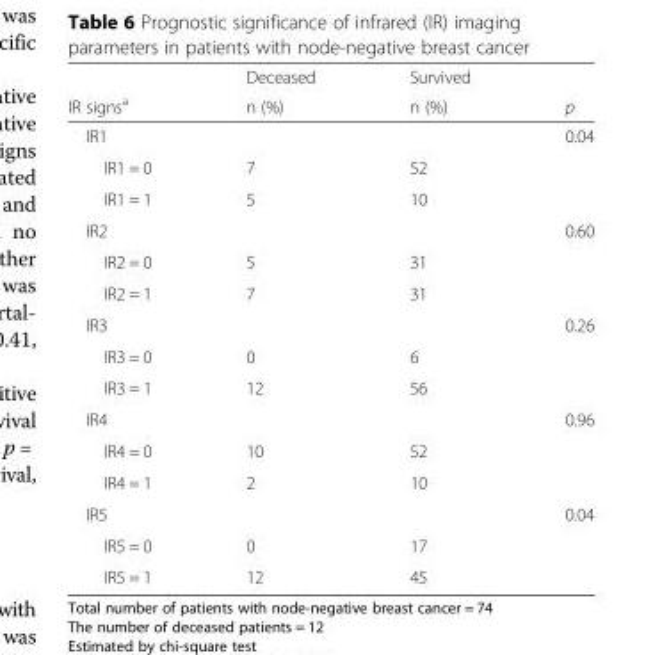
<table><thead><tr><td rowspan="2">IR signs<sup>a</sup></td><td rowspan="2">Deceased n (%)</td><td rowspan="2">Survived n (%)</td><td rowspan="2">p</td></tr><tr></tr></thead><tbody><tr><td colspan="3">IR1</td><td rowspan="3">0.04</td></tr><tr><td>IR1 = 0</td><td>7</td><td>52</td></tr><tr><td>IR1 = 1</td><td>5</td><td>10</td></tr><tr><td colspan="3">IR2</td><td rowspan="3">0.60</td></tr><tr><td>IR2 = 0</td><td>5</td><td>31</td></tr><tr><td>IR2 = 1</td><td>7</td><td>31</td></tr><tr><td colspan="3">IR3</td><td rowspan="3">0.26</td></tr><tr><td>IR3 = 0</td><td>0</td><td>6</td></tr><tr><td>IR3 = 1</td><td>12</td><td>56</td></tr><tr><td colspan="3">IR4</td><td rowspan="3">0.96</td></tr><tr><td>IR4 = 0</td><td>10</td><td>52</td></tr><tr><td>IR4 = 1</td><td>2</td><td>10</td></tr><tr><td colspan="3">IR5</td><td rowspan="3">0.04</td></tr><tr><td>IR5 = 0</td><td>0</td><td>17</td></tr><tr><td>IR5 = 1</td><td>12</td><td>45</td></tr></tbody></table>